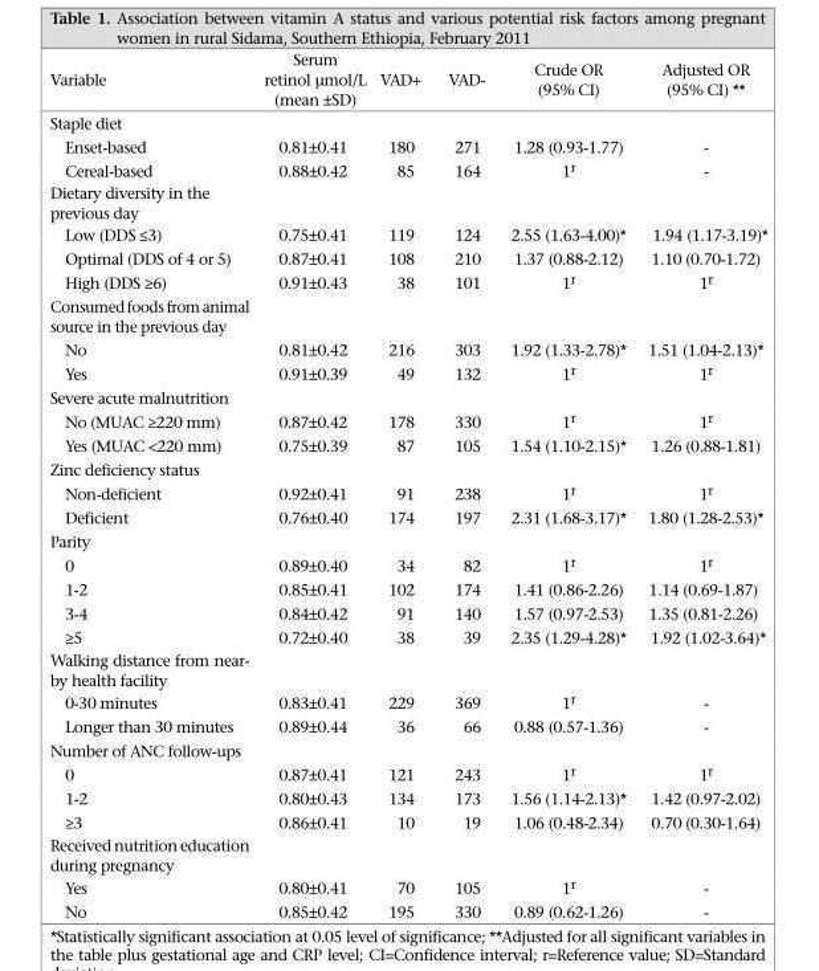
<table><thead><tr><td>Variable</td><td>Serum retinol µmol/L (mean ±SD)</td><td>VAD+</td><td>VAD-</td><td>Crude OR (95% CI)</td><td>Adjusted OR (95% CI) **</td></tr></thead><tbody><tr><td colspan="6">Staple diet</td></tr><tr><td>Enset-based</td><td>0.81±0.41</td><td>180</td><td>271</td><td>1.28 (0.93-1.77)</td><td>-</td></tr><tr><td>Cereal-based</td><td>0.88±0.42</td><td>85</td><td>164</td><td>1r</td><td>-</td></tr><tr><td colspan="6">Dietary diversity in the previous day</td></tr><tr><td>Low (DDS ≤3)</td><td>0.75±0.41</td><td>119</td><td>124</td><td>2.55 (1.63-4.00)*</td><td>1.94 (1.17-3.19)*</td></tr><tr><td>Optimal (DDS of 4 or 5)</td><td>0.87±0.41</td><td>108</td><td>210</td><td>1.37 (0.88-2.12)</td><td>1.10 (0.70-1.72)</td></tr><tr><td>High (DDS ≥6)</td><td>0.91±0.43</td><td>38</td><td>101</td><td>1<sup>r</sup></td><td>1<sup>r</sup></td></tr><tr><td colspan="6">Consumed foods from animal source in the previous day</td></tr><tr><td>No</td><td>0.81±0.42</td><td>216</td><td>303</td><td>1.92 (1.33-2.78)*</td><td>1.51 (1.04-2.13)*</td></tr><tr><td>Yes</td><td>0.91±0.39</td><td>49</td><td>132</td><td>1<sup>r</sup></td><td>1<sup>r</sup></td></tr><tr><td colspan="6">Severe acute malnutrition</td></tr><tr><td>No (MUAC ≥220 mm)</td><td>0.87±0.42</td><td>178</td><td>330</td><td>1<sup>r</sup></td><td>1<sup>r</sup></td></tr><tr><td>Yes (MUAC &lt;220 mm)</td><td>0.75±0.39</td><td>87</td><td>105</td><td>1.54 (1.10-2.15)*</td><td>1.26 (0.88-1.81)</td></tr><tr><td colspan="6">Zinc deficiency status</td></tr><tr><td>Non-deficient</td><td>0.92±0.41</td><td>91</td><td>238</td><td>1<sup>r</sup></td><td>1<sup>r</sup></td></tr><tr><td>Deficient</td><td>0.76±0.40</td><td>174</td><td>197</td><td>2.31 (1.68-3.17)*</td><td>1.80 (1.28-2.53)*</td></tr><tr><td colspan="6">Parity</td></tr><tr><td>0</td><td>0.89±0.40</td><td>34</td><td>82</td><td>1<sup>r</sup></td><td>1<sup>r</sup></td></tr><tr><td>1-2</td><td>0.85±0.41</td><td>102</td><td>174</td><td>1.41 (0.86-2.26)</td><td>1.14 (0.69-1.87)</td></tr><tr><td>3-4</td><td>0.84±0.42</td><td>91</td><td>140</td><td>1.57 (0.97-2.53)</td><td>1.35 (0.81-2.26)</td></tr><tr><td>≥5</td><td>0.72±0.40</td><td>38</td><td>39</td><td>2.35 (1.29-4.28)*</td><td>1.92 (1.02-3.64)*</td></tr><tr><td colspan="6">Walking distance from near- by health facility</td></tr><tr><td>0-30 minutes</td><td>0.83±0.41</td><td>229</td><td>369</td><td>1<sup>r</sup></td><td>-</td></tr><tr><td>Longer than 30 minutes</td><td>0.89±0.44</td><td>36</td><td>66</td><td>0.88 (0.57-1.36)</td><td>-</td></tr><tr><td colspan="6">Number of ANC follow-ups</td></tr><tr><td>0</td><td>0.87±0.41</td><td>121</td><td>243</td><td>1<sup>r</sup></td><td>1<sup>r</sup></td></tr><tr><td>1-2</td><td>0.80±0.43</td><td>134</td><td>173</td><td>1.56 (1.14-2.13)*</td><td>1.42 (0.97-2.02)</td></tr><tr><td>≥3</td><td>0.86±0.41</td><td>10</td><td>19</td><td>1.06 (0.48-2.34)</td><td>0.70 (0.30-1.64)</td></tr><tr><td colspan="6">Received nutrition education during pregnancy</td></tr><tr><td>Yes</td><td>0.80±0.41</td><td>70</td><td>105</td><td>1<sup>r</sup></td><td>-</td></tr><tr><td>No</td><td>0.85±0.42</td><td>195</td><td>330</td><td>0.89 (0.62-1.26)</td><td>-</td></tr></tbody></table>